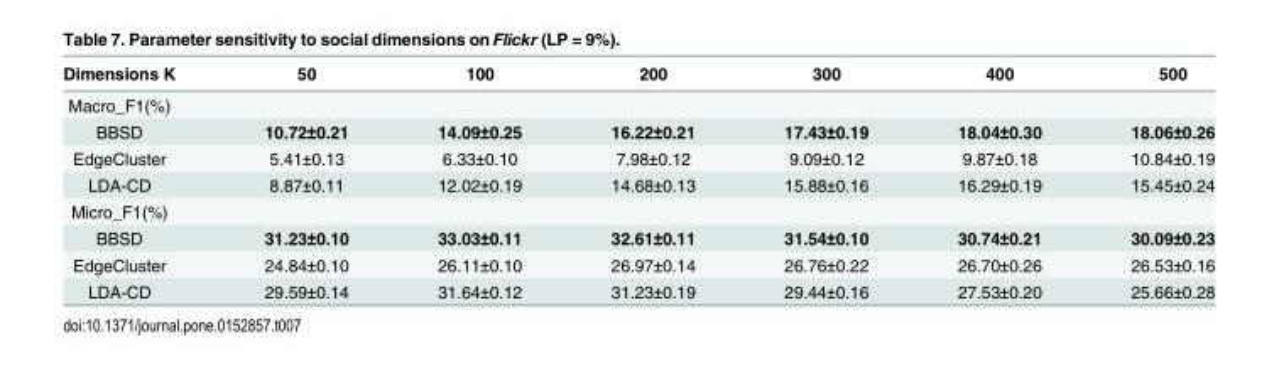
<table><thead><tr><td>Dimensions K</td><td>50</td><td>100</td><td>200</td><td>300</td><td>400</td><td>500</td></tr></thead><tbody><tr><td colspan="7">Macro_F1(%)</td></tr><tr><td>BBSD</td><td>10.72±0.21</td><td>14.09±0.25</td><td>16.22±0.21</td><td>17.43±0.19</td><td>18.04±0.30</td><td>18.06±0.26</td></tr><tr><td>EdgeCluster</td><td>5.41±0.13</td><td>6.33±0.10</td><td>7.98±0.12</td><td>9.09±0.12</td><td>9.87±0.18</td><td>10.84±0.19</td></tr><tr><td>LDA-CD</td><td>8.87±0.11</td><td>12.02±0.19</td><td>14.68±0.13</td><td>15.88±0.16</td><td>16.29±0.19</td><td>15.45±0.24</td></tr><tr><td colspan="7">Micro_F1(%)</td></tr><tr><td>BBSD</td><td>31.23±0.10</td><td>33.03±0.11</td><td>32.61±0.11</td><td>31.54±0.10</td><td>30.74±0.21</td><td>30.09±0.23</td></tr><tr><td>EdgeCluster</td><td>24.84±0.10</td><td>26.11±0.10</td><td>26.97±0.14</td><td>26.76±0.22</td><td>26.70±0.26</td><td>26.53±0.16</td></tr><tr><td>LDA-CD</td><td>29.59±0.14</td><td>31.64±0.12</td><td>31.23±0.19</td><td>29.44±0.16</td><td>27.53±0.20</td><td>25.66±0.28</td></tr></tbody></table>